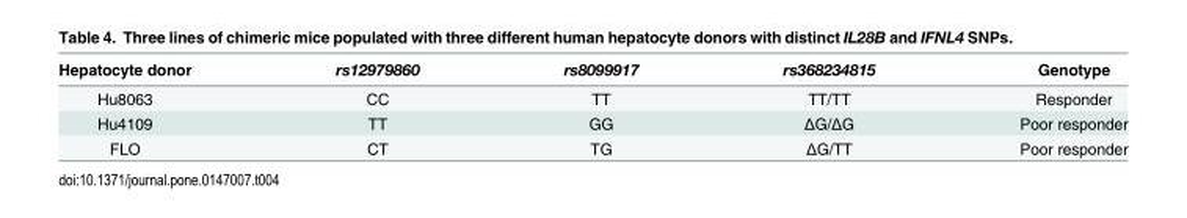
<table><thead><tr><td>Hepatocyte donor</td><td>rs12979860</td><td>rs8099917</td><td>rs368234815</td><td>Genotype</td></tr></thead><tbody><tr><td>Hu8063</td><td>CC</td><td>TT</td><td>TT/TT</td><td>Responder</td></tr><tr><td>Hu4109</td><td>TT</td><td>GG</td><td>ΔG/ΔG</td><td>Poor responder</td></tr><tr><td>FLO</td><td>CT</td><td>TG</td><td>ΔG/TT</td><td>Poor responder</td></tr></tbody></table>